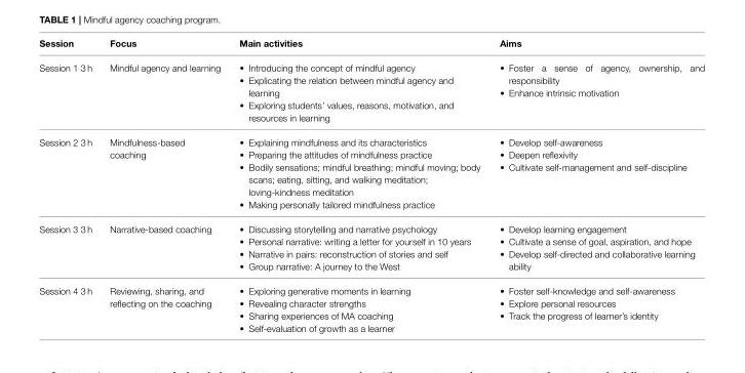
<table><thead><tr><td>Session</td><td>Focus</td><td>Main activities</td><td>Aims</td></tr></thead><tbody><tr><td>Session 1 3 h</td><td>Mindful agency and learning</td><td>• Introducing the concept of mindful agency • Explicating the relation between mindful agency and learning • Exploring students’ values, reasons, motivation, and resources in learning</td><td>• Foster a sense of agency, ownership, and responsibility • Enhance intrinsic motivation</td></tr><tr><td>Session 2 3 h</td><td>Mindfulness-based coaching</td><td>• Explaining mindfulness and its characteristics • Preparing the attitudes of mindfulness practice • Bodily sensations; mindful breathing; mindful moving; body scans; eating, sitting, and walking meditation; loving-kindness meditation • Making personally tailored mindfulness practice</td><td>• Develop self-awareness • Deepen reflexivity • Cultivate self-management and self-discipline</td></tr><tr><td>Session 3 3 h</td><td>Narrative-based coaching</td><td>• Discussing storytelling and narrative psychology • Personal narrative: writing a letter for yourself in 10 years • Narrative in pairs: reconstruction of stories and self • Group narrative: A journey to the West</td><td>• Develop learning engagement • Cultivate a sense of goal, aspiration, and hope • Develop self-directed and collaborative learning ability</td></tr><tr><td>Session 4 3 h</td><td>Reviewing, sharing, and reflecting on the coaching</td><td>• Exploring generative moments in learning • Revealing character strengths • Sharing experiences of MA coaching • Self-evaluation of growth as a learner</td><td>• Foster self-knowledge and self-awareness • Explore personal resources • Track the progress of learner’s identity</td></tr></tbody></table>